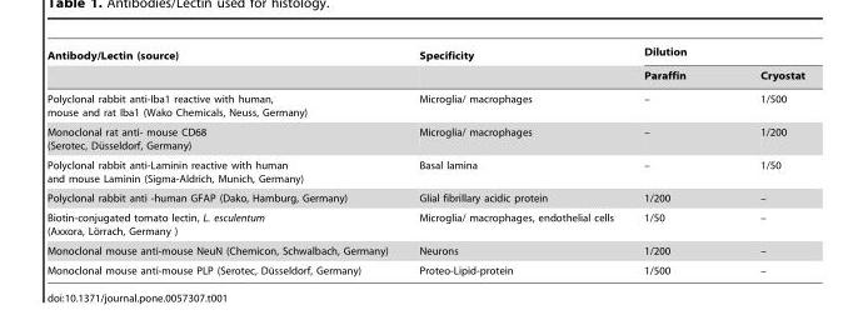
<table><thead><tr><td rowspan="2">Antibody/Lectin (source)</td><td rowspan="2">Specificity</td><td colspan="2">Dilution</td></tr><tr><td>Paraffin</td><td>Cryostat</td></tr></thead><tbody><tr><td>Polyclonal rabbit anti-Iba1 reactive with human, mouse and rat Iba1 (Wako Chemicals, Neuss, Germany)</td><td>Microglia/ macrophages</td><td>–</td><td>1/500</td></tr><tr><td>Monoclonal rat anti- mouse CD68 (Serotec, Du¨sseldorf, Germany)</td><td>Microglia/ macrophages</td><td>–</td><td>1/200</td></tr><tr><td>Polyclonal rabbit anti-Laminin reactive with human and mouse Laminin (Sigma-Aldrich, Munich, Germany)</td><td>Basal lamina</td><td>–</td><td>1/50</td></tr><tr><td>Polyclonal rabbit anti -human GFAP (Dako, Hamburg, Germany)</td><td>Glial fibrillary acidic protein</td><td>1/200</td><td>–</td></tr><tr><td>Biotin-conjugated tomato lectin, L. esculentum (Axxora, Lo¨rrach, Germany )</td><td>Microglia/ macrophages, endothelial cells</td><td>1/50</td><td>–</td></tr><tr><td>Monoclonal mouse anti-mouse NeuN (Chemicon, Schwalbach, Germany)</td><td>Neurons</td><td>1/200</td><td>–</td></tr><tr><td>Monoclonal mouse anti-mouse PLP (Serotec, Du¨sseldorf, Germany)</td><td>Proteo-Lipid-protein</td><td>1/500</td><td>–</td></tr></tbody></table>